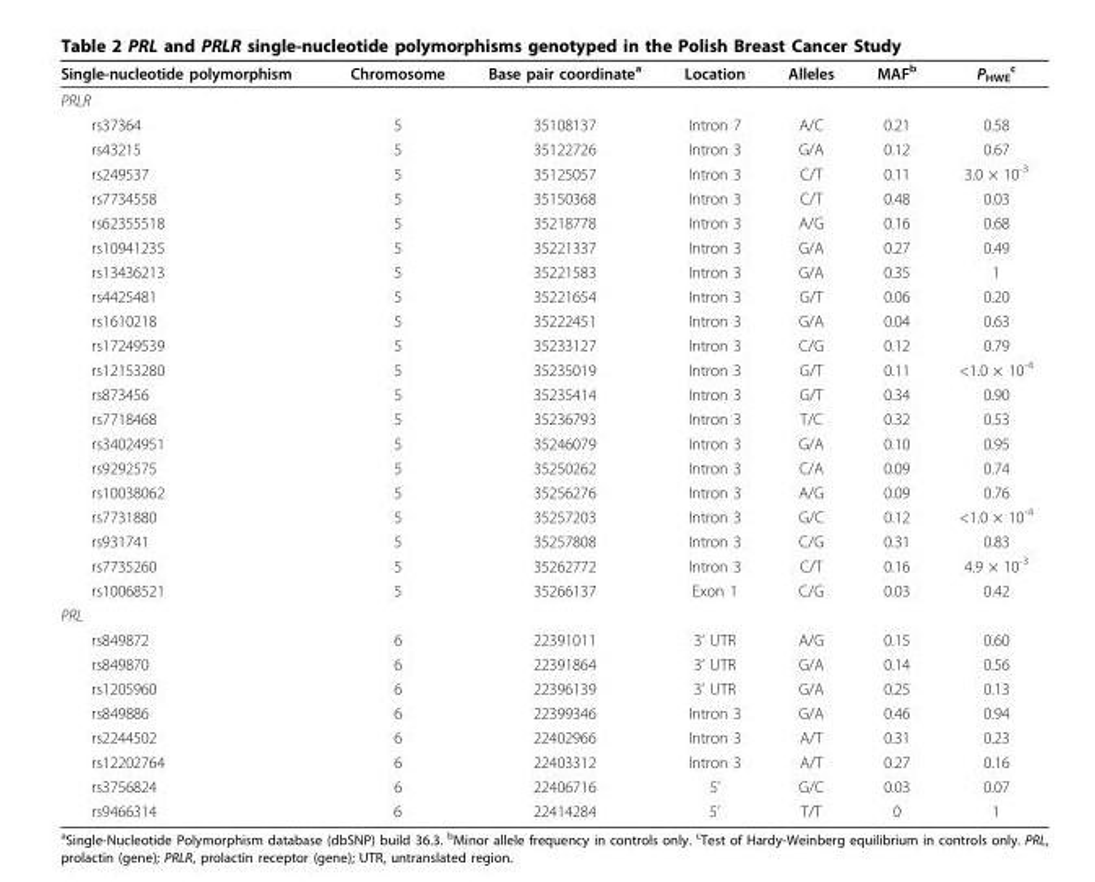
<table><thead><tr><td>Single-nucleotide polymorphism</td><td>Chromosome</td><td>Base pair coordinate<sup>a</sup></td><td>Location</td><td>Alleles</td><td>MAF<sup>b</sup></td><td>P<sub>HWE</sub> <sup>c</sup></td></tr></thead><tbody><tr><td colspan="7">PRLR</td></tr><tr><td>rs37364</td><td>5</td><td>35108137</td><td>Intron 7</td><td>A/C</td><td>0.21</td><td>0.58</td></tr><tr><td>rs43215</td><td>5</td><td>35122726</td><td>Intron 3</td><td>G/A</td><td>0.12</td><td>0.67</td></tr><tr><td>rs249537</td><td>5</td><td>35125057</td><td>Intron 3</td><td>C/T</td><td>0.11</td><td>3.0 × 10<sup>-3</sup></td></tr><tr><td>rs7734558</td><td>5</td><td>35150368</td><td>Intron 3</td><td>C/T</td><td>0.48</td><td>0.03</td></tr><tr><td>rs62355518</td><td>5</td><td>35218778</td><td>Intron 3</td><td>A/G</td><td>0.16</td><td>0.68</td></tr><tr><td>rs10941235</td><td>5</td><td>35221337</td><td>Intron 3</td><td>G/A</td><td>0.27</td><td>0.49</td></tr><tr><td>rs13436213</td><td>5</td><td>35221583</td><td>Intron 3</td><td>G/A</td><td>0.35</td><td>1</td></tr><tr><td>rs4425481</td><td>5</td><td>35221654</td><td>Intron 3</td><td>G/T</td><td>0.06</td><td>0.20</td></tr><tr><td>rs1610218</td><td>5</td><td>35222451</td><td>Intron 3</td><td>G/A</td><td>0.04</td><td>0.63</td></tr><tr><td>rs17249539</td><td>5</td><td>35233127</td><td>Intron 3</td><td>C/G</td><td>0.12</td><td>0.79</td></tr><tr><td>rs12153280</td><td>5</td><td>35235019</td><td>Intron 3</td><td>G/T</td><td>0.11</td><td>&lt;1.0 × 10<sup>-4</sup></td></tr><tr><td>rs873456</td><td>5</td><td>35235414</td><td>Intron 3</td><td>G/T</td><td>0.34</td><td>0.90</td></tr><tr><td>rs7718468</td><td>5</td><td>35236793</td><td>Intron 3</td><td>T/C</td><td>0.32</td><td>0.53</td></tr><tr><td>rs34024951</td><td>5</td><td>35246079</td><td>Intron 3</td><td>G/A</td><td>0.10</td><td>0.95</td></tr><tr><td>rs9292575</td><td>5</td><td>35250262</td><td>Intron 3</td><td>C/A</td><td>0.09</td><td>0.74</td></tr><tr><td>rs10038062</td><td>5</td><td>35256276</td><td>Intron 3</td><td>A/G</td><td>0.09</td><td>0.76</td></tr><tr><td>rs7731880</td><td>5</td><td>35257203</td><td>Intron 3</td><td>G/C</td><td>0.12</td><td>&lt;1.0 × 10<sup>-4</sup></td></tr><tr><td>rs931741</td><td>5</td><td>35257808</td><td>Intron 3</td><td>C/G</td><td>0.31</td><td>0.83</td></tr><tr><td>rs7735260</td><td>5</td><td>35262772</td><td>Intron 3</td><td>C/T</td><td>0.16</td><td>4.9 × 10<sup>-3</sup></td></tr><tr><td>rs10068521</td><td>5</td><td>35266137</td><td>Exon 1</td><td>C/G</td><td>0.03</td><td>0.42</td></tr><tr><td colspan="7">PRL</td></tr><tr><td>rs849872</td><td>6</td><td>22391011</td><td>3’ UTR</td><td>A/G</td><td>0.15</td><td>0.60</td></tr><tr><td>rs849870</td><td>6</td><td>22391864</td><td>3’ UTR</td><td>G/A</td><td>0.14</td><td>0.56</td></tr><tr><td>rs1205960</td><td>6</td><td>22396139</td><td>3’ UTR</td><td>G/A</td><td>0.25</td><td>0.13</td></tr><tr><td>rs849886</td><td>6</td><td>22399346</td><td>Intron 3</td><td>G/A</td><td>0.46</td><td>0.94</td></tr><tr><td>rs2244502</td><td>6</td><td>22402966</td><td>Intron 3</td><td>A/T</td><td>0.31</td><td>0.23</td></tr><tr><td>rs12202764</td><td>6</td><td>22403312</td><td>Intron 3</td><td>A/T</td><td>0.27</td><td>0.16</td></tr><tr><td>rs3756824</td><td>6</td><td>22406716</td><td>5’</td><td>G/C</td><td>0.03</td><td>0.07</td></tr><tr><td>rs9466314</td><td>6</td><td>22414284</td><td>5’</td><td>T/T</td><td>0</td><td>1</td></tr></tbody></table>